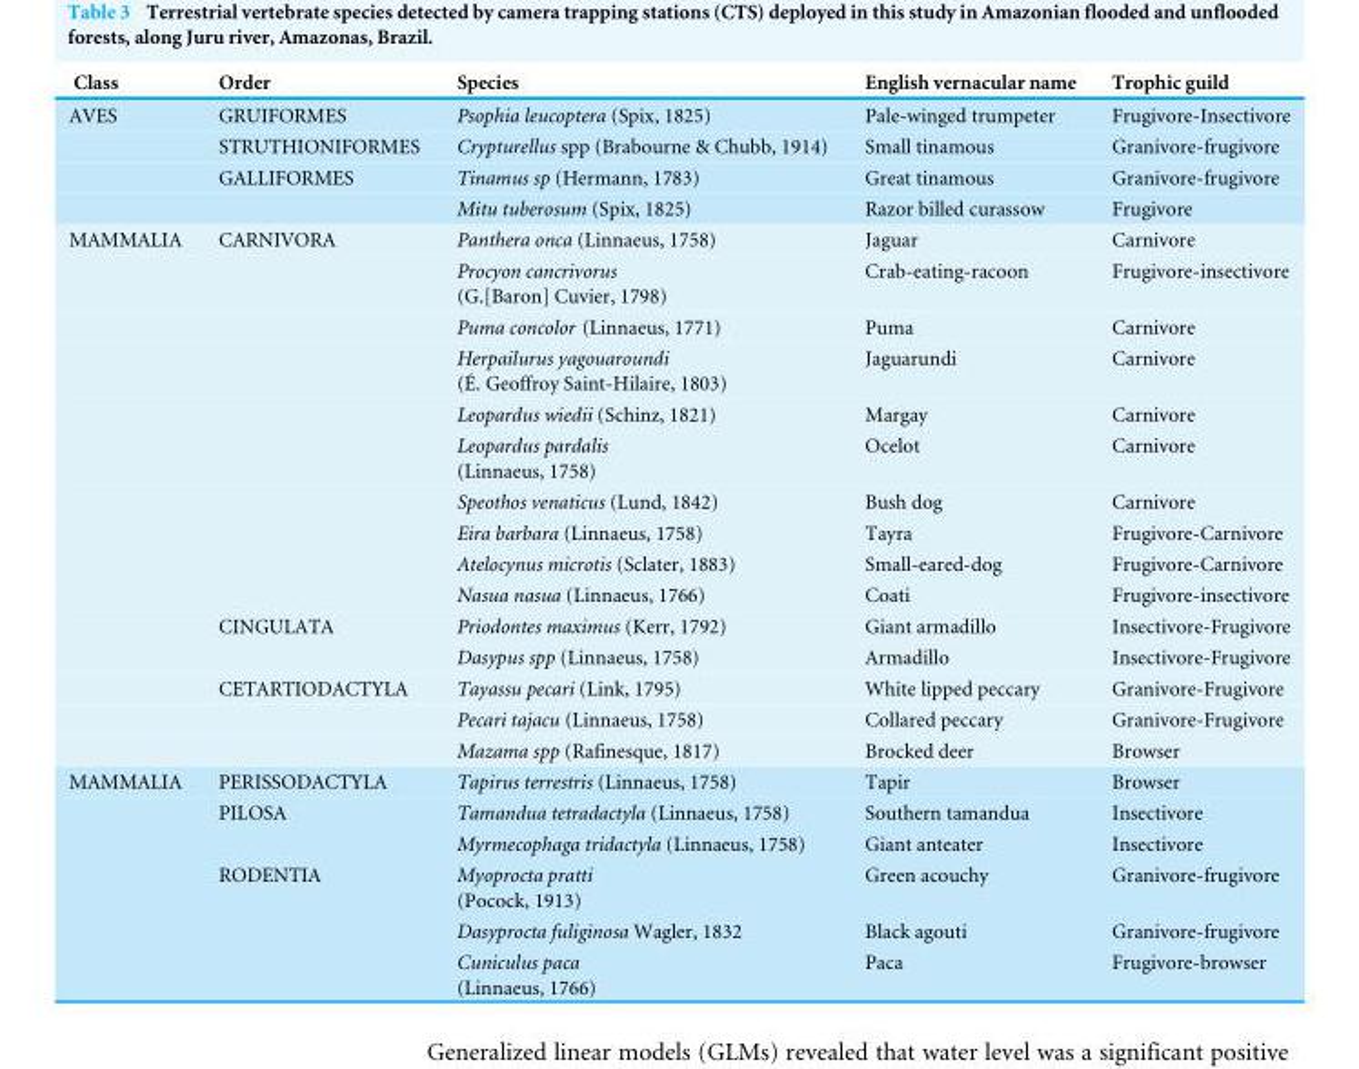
<table><thead><tr><td>Class</td><td>Order</td><td>Species</td><td>English vernacular name</td><td>Trophic guild</td></tr></thead><tbody><tr><td rowspan="4">AVES</td><td>GRUIFORMES</td><td>Psophia leucoptera (Spix, 1825)</td><td>Pale-winged trumpeter</td><td>Frugivore-Insectivore</td></tr><tr><td>STRUTHIONIFORMES</td><td>Crypturellus spp (Brabourne &amp; Chubb, 1914)</td><td>Small tinamous</td><td>Granivore-frugivore</td></tr><tr><td>GALLIFORMES</td><td>Tinamus sp (Hermann, 1783)</td><td>Great tinamous</td><td>Granivore-frugivore</td></tr><tr><td></td><td>Mitu tuberosum (Spix, 1825)</td><td>Razor billed curassow</td><td>Frugivore</td></tr><tr><td rowspan="15">MAMMALIA</td><td>CARNIVORA</td><td>Panthera onca (Linnaeus, 1758)</td><td>Jaguar</td><td>Carnivore</td></tr><tr><td></td><td>Procyon cancrivorus (G.[Baron] Cuvier, 1798)</td><td>Crab-eating-racoon</td><td>Frugivore-insectivore</td></tr><tr><td></td><td>Puma concolor (Linnaeus, 1771)</td><td>Puma</td><td>Carnivore</td></tr><tr><td></td><td>Herpailurus yagouaroundi (É. Geoffroy Saint-Hilaire, 1803)</td><td>Jaguarundi</td><td>Carnivore</td></tr><tr><td></td><td>Leopardus wiedii (Schinz, 1821)</td><td>Margay</td><td>Carnivore</td></tr><tr><td></td><td>Leopardus pardalis (Linnaeus, 1758)</td><td>Ocelot</td><td>Carnivore</td></tr><tr><td></td><td>Speothos venaticus (Lund, 1842)</td><td>Bush dog</td><td>Carnivore</td></tr><tr><td></td><td>Eira barbara (Linnaeus, 1758)</td><td>Tayra</td><td>Frugivore-Carnivore</td></tr><tr><td></td><td>Atelocynus microtis (Sclater, 1883)</td><td>Small-eared-dog</td><td>Frugivore-Carnivore</td></tr><tr><td></td><td>Nasua nasua (Linnaeus, 1766)</td><td>Coati</td><td>Frugivore-insectivore</td></tr><tr><td>CINGULATA</td><td>Priodontes maximus (Kerr, 1792)</td><td>Giant armadillo</td><td>Insectivore-Frugivore</td></tr><tr><td></td><td>Dasypus spp (Linnaeus, 1758)</td><td>Armadillo</td><td>Insectivore-Frugivore</td></tr><tr><td>CETARTIODACTYLA</td><td>Tayassu pecari (Link, 1795)</td><td>White lipped peccary</td><td>Granivore-Frugivore</td></tr><tr><td></td><td>Pecari tajacu (Linnaeus, 1758)</td><td>Collared peccary</td><td>Granivore-Frugivore</td></tr><tr><td></td><td>Mazama spp (Rafinesque, 1817)</td><td>Brocked deer</td><td>Browser</td></tr><tr><td rowspan="6">MAMMALIA</td><td>PERISSODACTYLA</td><td>Tapirus terrestris (Linnaeus, 1758)</td><td>Tapir</td><td>Browser</td></tr><tr><td>PILOSA</td><td>Tamandua tetradactyla (Linnaeus, 1758)</td><td>Southern tamandua</td><td>Insectivore</td></tr><tr><td></td><td>Myrmecophaga tridactyla (Linnaeus, 1758)</td><td>Giant anteater</td><td>Insectivore</td></tr><tr><td>RODENTIA</td><td>Myoprocta pratti (Pocock, 1913)</td><td>Green acouchy</td><td>Granivore-frugivore</td></tr><tr><td></td><td>Dasyprocta fuliginosa Wagler, 1832</td><td>Black agouti</td><td>Granivore-frugivore</td></tr><tr><td></td><td>Cuniculus paca (Linnaeus, 1766)</td><td>Paca</td><td>Frugivore-browser</td></tr></tbody></table>